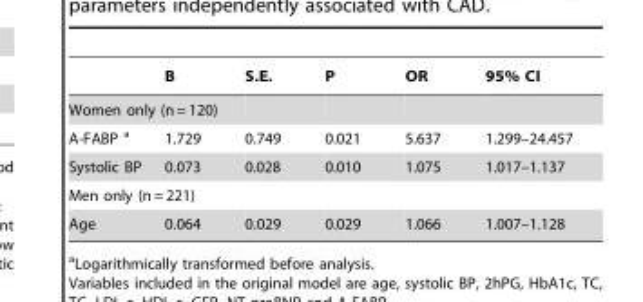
<table><thead><tr><td></td><td>B</td><td>S.E.</td><td>P</td><td>OR</td><td>95% CI</td></tr></thead><tbody><tr><td colspan="6">Women only (n = 120)</td></tr><tr><td>A-FABP a</td><td>1.729</td><td>0.749</td><td>0.021</td><td>5.637</td><td>1.299–24.457</td></tr><tr><td>Systolic BP</td><td>0.073</td><td>0.028</td><td>0.010</td><td>1.075</td><td>1.017–1.137</td></tr><tr><td colspan="6">Men only (n = 221)</td></tr><tr><td>Age</td><td>0.064</td><td>0.029</td><td>0.029</td><td>1.066</td><td>1.007–1.128</td></tr></tbody></table>